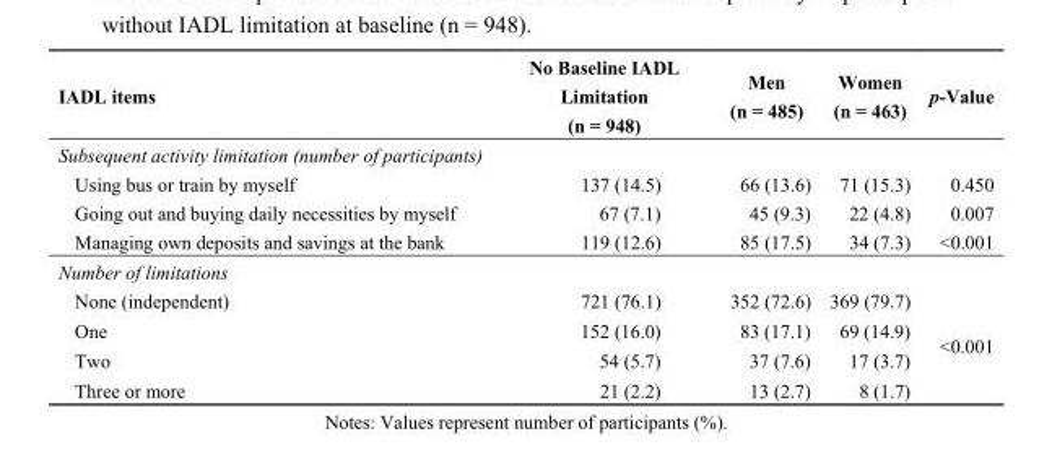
<table><thead><tr><td>IADL items</td><td>No Baseline IADL Limitation (n = 948)</td><td>Men (n = 485)</td><td>Women (n = 463)</td><td>p-Value</td></tr></thead><tbody><tr><td colspan="5">Subsequent activity limitation (number of participants)</td></tr><tr><td>Using bus or train by myself</td><td>137 (14.5)</td><td>66 (13.6)</td><td>71 (15.3)</td><td>0.450</td></tr><tr><td>Going out and buying daily necessities by myself</td><td>67 (7.1)</td><td>45 (9.3)</td><td>22 (4.8)</td><td>0.007</td></tr><tr><td>Managing own deposits and savings at the bank</td><td>119 (12.6)</td><td>85 (17.5)</td><td>34 (7.3)</td><td>&lt;0.001</td></tr><tr><td colspan="5">Number of limitations</td></tr><tr><td>None (independent)</td><td>721 (76.1)</td><td>352 (72.6)</td><td>369 (79.7)</td><td rowspan="4">&lt;0.001</td></tr><tr><td>One</td><td>152 (16.0)</td><td>83 (17.1)</td><td>69 (14.9)</td></tr><tr><td>Two</td><td>54 (5.7)</td><td>37 (7.6)</td><td>17 (3.7)</td></tr><tr><td>Three or more</td><td>21 (2.2)</td><td>13 (2.7)</td><td>8 (1.7)</td></tr></tbody></table>